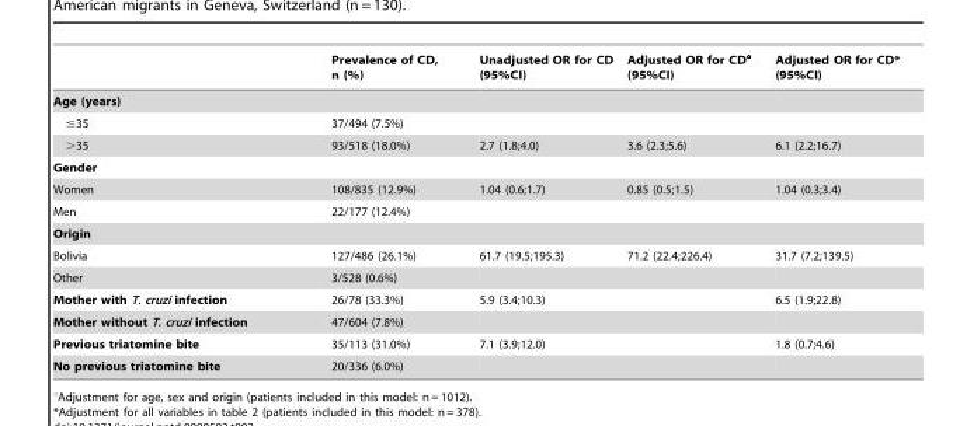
<table><thead><tr><td></td><td>Prevalence of CD, n (%)</td><td>Unadjusted OR for CD (95%CI)</td><td>Adjusted OR for CD° (95%CI)</td><td>Adjusted OR for CD* (95%CI)</td></tr></thead><tbody><tr><td colspan="5">Age (years)</td></tr><tr><td>≤35</td><td>37/494 (7.5%)</td><td></td><td></td><td></td></tr><tr><td>&gt;35</td><td>93/518 (18.0%)</td><td>2.7 (1.8;4.0)</td><td>3.6 (2.3;5.6)</td><td>6.1 (2.2;16.7)</td></tr><tr><td colspan="5">Gender</td></tr><tr><td>Women</td><td>108/835 (12.9%)</td><td>1.04 (0.6;1.7)</td><td>0.85 (0.5;1.5)</td><td>1.04 (0.3;3.4)</td></tr><tr><td>Men</td><td>22/177 (12.4%)</td><td></td><td></td><td></td></tr><tr><td colspan="5">Origin</td></tr><tr><td>Bolivia</td><td>127/486 (26.1%)</td><td>61.7 (19.5;195.3)</td><td>71.2 (22.4;226.4)</td><td>31.7 (7.2;139.5)</td></tr><tr><td>Other</td><td>3/528 (0.6%)</td><td></td><td></td><td></td></tr><tr><td>Mother with T. cruzi infection</td><td>26/78 (33.3%)</td><td>5.9 (3.4;10.3)</td><td></td><td>6.5 (1.9;22.8)</td></tr><tr><td>Mother without T. cruzi infection</td><td>47/604 (7.8%)</td><td></td><td></td><td></td></tr><tr><td>Previous triatomine bite</td><td>35/113 (31.0%)</td><td>7.1 (3.9;12.0)</td><td></td><td>1.8 (0.7;4.6)</td></tr><tr><td>No previous triatomine bite</td><td>20/336 (6.0%)</td><td></td><td></td><td></td></tr></tbody></table>